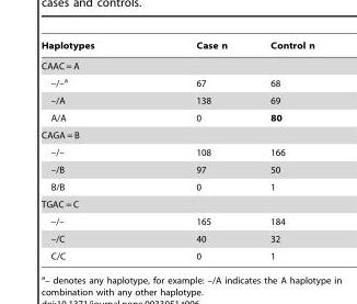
<table><thead><tr><td>Haplotypes</td><td>Case n</td><td>Control n</td></tr></thead><tbody><tr><td colspan="3">CAAC = A</td></tr><tr><td>–/–a</td><td>67</td><td>68</td></tr><tr><td>–/A</td><td>138</td><td>69</td></tr><tr><td>A/A</td><td>0</td><td>80</td></tr><tr><td colspan="3">CAGA = B</td></tr><tr><td>–/–</td><td>108</td><td>166</td></tr><tr><td>–/B</td><td>97</td><td>50</td></tr><tr><td>B/B</td><td>0</td><td>1</td></tr><tr><td colspan="3">TGAC = C</td></tr><tr><td>–/–</td><td>165</td><td>184</td></tr><tr><td>–/C</td><td>40</td><td>32</td></tr><tr><td>C/C</td><td>0</td><td>1</td></tr></tbody></table>